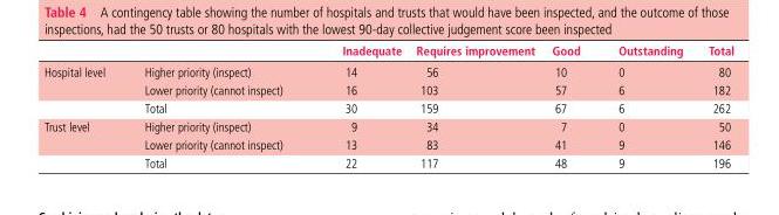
<table><thead><tr><td></td><td></td><td>Inadequate</td><td>Requires improvement</td><td>Good</td><td>Outstanding</td><td>Total</td></tr></thead><tbody><tr><td rowspan="3">Hospital level</td><td>Higher priority (inspect)</td><td>14</td><td>56</td><td>10</td><td>0</td><td>80</td></tr><tr><td>Lower priority (cannot inspect)</td><td>16</td><td>103</td><td>57</td><td>6</td><td>182</td></tr><tr><td>Total</td><td>30</td><td>159</td><td>67</td><td>6</td><td>262</td></tr><tr><td rowspan="3">Trust level</td><td>Higher priority (inspect)</td><td>9</td><td>34</td><td>7</td><td>0</td><td>50</td></tr><tr><td>Lower priority (cannot inspect)</td><td>13</td><td>83</td><td>41</td><td>9</td><td>146</td></tr><tr><td>Total</td><td>22</td><td>117</td><td>48</td><td>9</td><td>196</td></tr></tbody></table>